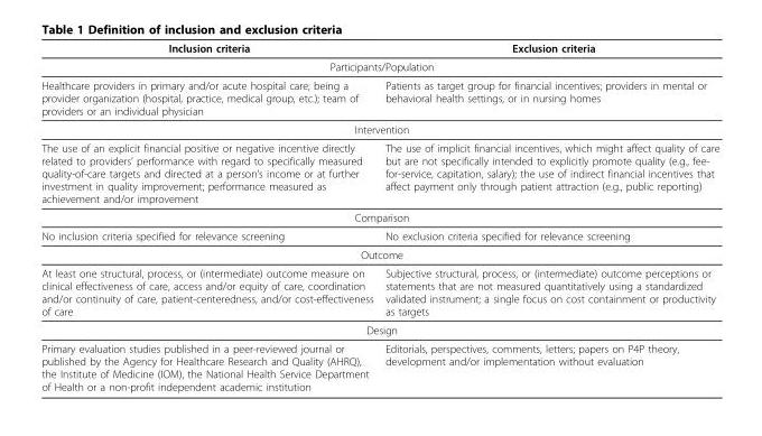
<table><thead><tr><td>Inclusion criteria</td><td>Exclusion criteria</td></tr></thead><tbody><tr><td colspan="2">Participants/Population</td></tr><tr><td>Healthcare providers in primary and/or acute hospital care; being a provider organization (hospital, practice, medical group, etc.); team of providers or an individual physician</td><td>Patients as target group for financial incentives; providers in mental or behavioral health settings, or in nursing homes</td></tr><tr><td colspan="2">Intervention</td></tr><tr><td>The use of an explicit financial positive or negative incentive directly related to providers’ performance with regard to specifically measured quality-of-care targets and directed at a person’s income or at further investment in quality improvement; performance measured as achievement and/or improvement</td><td>The use of implicit financial incentives, which might affect quality of care but are not specifically intended to explicitly promote quality (e.g., fee- for-service, capitation, salary); the use of indirect financial incentives that affect payment only through patient attraction (e.g., public reporting)</td></tr><tr><td colspan="2">Comparison</td></tr><tr><td>No inclusion criteria specified for relevance screening</td><td>No exclusion criteria specified for relevance screening</td></tr><tr><td colspan="2">Outcome</td></tr><tr><td>At least one structural, process, or (intermediate) outcome measure on clinical effectiveness of care, access and/or equity of care, coordination and/or continuity of care, patient-centeredness, and/or cost-effectiveness of care</td><td>Subjective structural, process, or (intermediate) outcome perceptions or statements that are not measured quantitatively using a standardized validated instrument; a single focus on cost containment or productivity as targets</td></tr><tr><td colspan="2">Design</td></tr><tr><td>Primary evaluation studies published in a peer-reviewed journal or published by the Agency for Healthcare Research and Quality (AHRQ), the Institute of Medicine (IOM), the National Health Service Department of Health or a non-profit independent academic institution</td><td>Editorials, perspectives, comments, letters; papers on P4P theory, development and/or implementation without evaluation</td></tr></tbody></table>